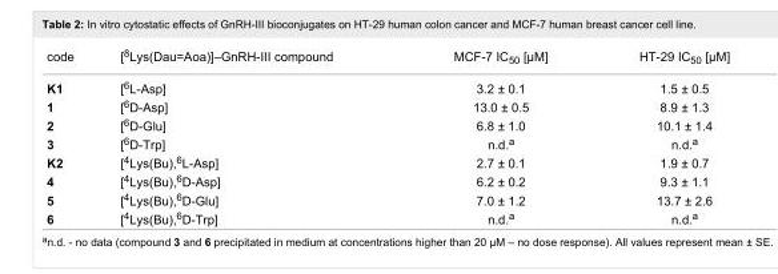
<table><tbody><tr><td>code</td><td>[<sup>8</sup>Lys(Dau=Aoa)]–GnRH-III compound</td><td>MCF-7 IC<sub>50</sub> [µM]</td><td>HT-29 IC<sub>50</sub> [µM]</td></tr><tr><td>K1</td><td>[<sup>6</sup>L-Asp]</td><td>3.2 ± 0.1</td><td>1.5 ± 0.5</td></tr><tr><td>1</td><td>[<sup>6</sup>D-Asp]</td><td>13.0 ± 0.5</td><td>8.9 ± 1.3</td></tr><tr><td>2</td><td>[<sup>6</sup>D-Glu]</td><td>6.8 ± 1.0</td><td>10.1 ± 1.4</td></tr><tr><td>3</td><td>[<sup>6</sup>D-Trp]</td><td>n.d.<sup>a</sup></td><td>n.d.<sup>a</sup></td></tr><tr><td>K2</td><td>[<sup>4</sup>Lys(Bu),<sup>6</sup>L-Asp]</td><td>2.7 ± 0.1</td><td>1.9 ± 0.7</td></tr><tr><td>4</td><td>[<sup>4</sup>Lys(Bu),<sup>6</sup>D-Asp]</td><td>6.2 ± 0.2</td><td>9.3 ± 1.1</td></tr><tr><td>5</td><td>[<sup>4</sup>Lys(Bu),<sup>6</sup>D-Glu]</td><td>7.0 ± 1.2</td><td>13.7 ± 2.6</td></tr><tr><td>6</td><td>[<sup>4</sup>Lys(Bu),<sup>6</sup>D-Trp]</td><td>n.d.<sup>a</sup></td><td>n.d.<sup>a</sup></td></tr></tbody></table>